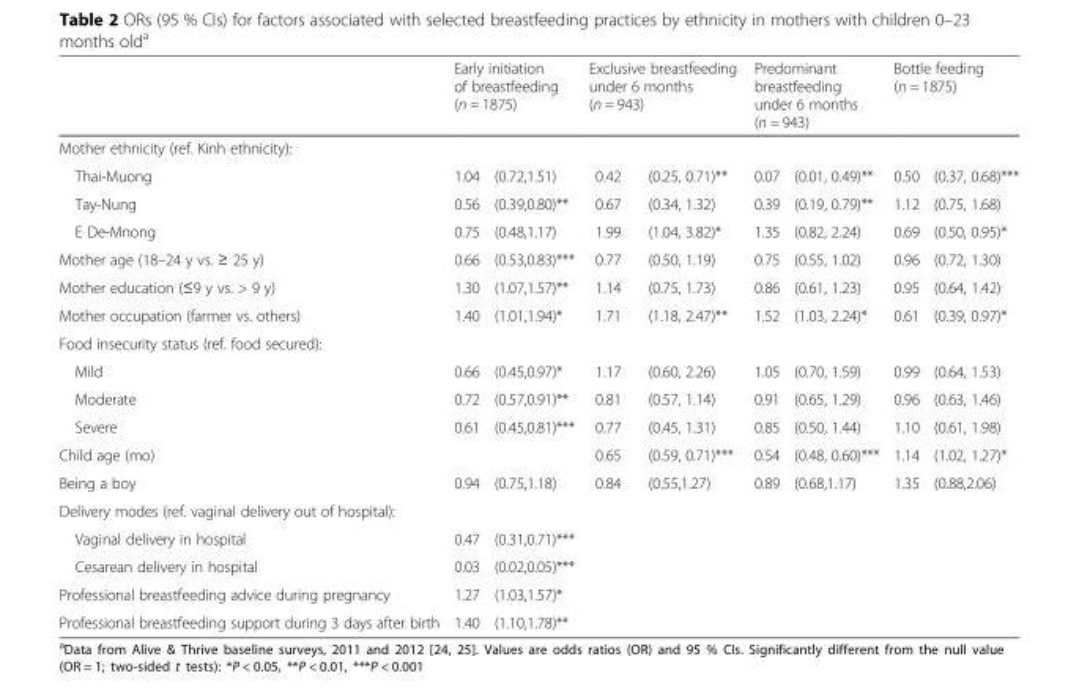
<table><thead><tr><td></td><td colspan="2">Early initiation of breastfeeding (n = 1875)</td><td colspan="2">Exclusive breastfeeding under 6 months (n = 943)</td><td colspan="2">Predominant breastfeeding under 6 months (n = 943)</td><td colspan="2">Bottle feeding (n = 1875)</td></tr><tr><td colspan="9">Mother ethnicity (ref. Kinh ethnicity):</td></tr><tr><td>Thai-Muong</td><td>1.04</td><td>(0.72,1.51)</td><td>0.42</td><td>(0.25, 0.71)**</td><td>0.07</td><td>(0.01, 0.49)**</td><td>0.50</td><td>(0.37, 0.68)***</td></tr></thead><tbody><tr><td>Tay-Nung</td><td>0.56</td><td>(0.39,0.80)**</td><td>0.67</td><td>(0.34, 1.32)</td><td>0.39</td><td>(0.19, 0.79)**</td><td>1.12</td><td>(0.75, 1.68)</td></tr><tr><td>E De-Mnong</td><td>0.75</td><td>(0.48,1.17)</td><td>1.99</td><td>(1.04, 3.82)*</td><td>1.35</td><td>(0.82, 2.24)</td><td>0.69</td><td>(0.50, 0.95)*</td></tr><tr><td>Mother age (18–24 y vs. ≥ 25 y)</td><td>0.66</td><td>(0.53,0.83)***</td><td>0.77</td><td>(0.50, 1.19)</td><td>0.75</td><td>(0.55, 1.02)</td><td>0.96</td><td>(0.72, 1.30)</td></tr><tr><td>Mother education (≤9 y vs. &gt; 9 y)</td><td>1.30</td><td>(1.07,1.57)**</td><td>1.14</td><td>(0.75, 1.73)</td><td>0.86</td><td>(0.61, 1.23)</td><td>0.95</td><td>(0.64, 1.42)</td></tr><tr><td>Mother occupation (farmer vs. others)</td><td>1.40</td><td>(1.01,1.94)*</td><td>1.71</td><td>(1.18, 2.47)**</td><td>1.52</td><td>(1.03, 2.24)*</td><td>0.61</td><td>(0.39, 0.97)*</td></tr><tr><td colspan="9">Food insecurity status (ref. food secured):</td></tr><tr><td>Mild</td><td>0.66</td><td>(0.45,0.97)*</td><td>1.17</td><td>(0.60, 2.26)</td><td>1.05</td><td>(0.70, 1.59)</td><td>0.99</td><td>(0.64, 1.53)</td></tr><tr><td>Moderate</td><td>0.72</td><td>(0.57,0.91)**</td><td>0.81</td><td>(0.57, 1.14)</td><td>0.91</td><td>(0.65, 1.29)</td><td>0.96</td><td>(0.63, 1.46)</td></tr><tr><td>Severe</td><td>0.61</td><td>(0.45,0.81)***</td><td>0.77</td><td>(0.45, 1.31)</td><td>0.85</td><td>(0.50, 1.44)</td><td>1.10</td><td>(0.61, 1.98)</td></tr><tr><td>Child age (mo)</td><td></td><td></td><td>0.65</td><td>(0.59, 0.71)***</td><td>0.54</td><td>(0.48, 0.60)***</td><td>1.14</td><td>(1.02, 1.27)*</td></tr><tr><td>Being a boy</td><td>0.94</td><td>(0.75,1.18)</td><td>0.84</td><td>(0.55,1.27)</td><td>0.89</td><td>(0.68,1.17)</td><td>1.35</td><td>(0.88,2.06)</td></tr><tr><td colspan="9">Delivery modes (ref. vaginal delivery out of hospital):</td></tr><tr><td>Vaginal delivery in hospital</td><td>0.47</td><td>(0.31,0.71)***</td><td></td><td></td><td></td><td></td><td></td><td></td></tr><tr><td>Cesarean delivery in hospital</td><td>0.03</td><td>(0.02,0.05)***</td><td></td><td></td><td></td><td></td><td></td><td></td></tr><tr><td>Professional breastfeeding advice during pregnancy</td><td>1.27</td><td>(1.03,1.57)*</td><td></td><td></td><td></td><td></td><td></td><td></td></tr><tr><td>Professional breastfeeding support during 3 days after birth</td><td>1.40</td><td>(1.10,1.78)**</td><td></td><td></td><td></td><td></td><td></td><td></td></tr></tbody></table>